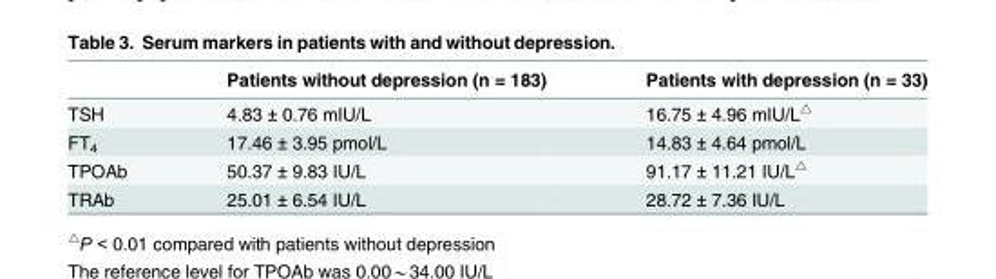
<table><thead><tr><td></td><td>Patients without depression (n = 183)</td><td>Patients with depression (n = 33)</td></tr></thead><tbody><tr><td>TSH</td><td>4.83 ± 0.76 mIU/L</td><td>16.75 ± 4.96 mIU/L<sup>△</sup></td></tr><tr><td>FT<sub>4</sub></td><td>17.46 ± 3.95 pmol/L</td><td>14.83 ± 4.64 pmol/L</td></tr><tr><td>TPOAb</td><td>50.37 ± 9.83 IU/L</td><td>91.17 ± 11.21 IU/L<sup>△</sup></td></tr><tr><td>TRAb</td><td>25.01 ± 6.54 IU/L</td><td>28.72 ± 7.36 IU/L</td></tr></tbody></table>